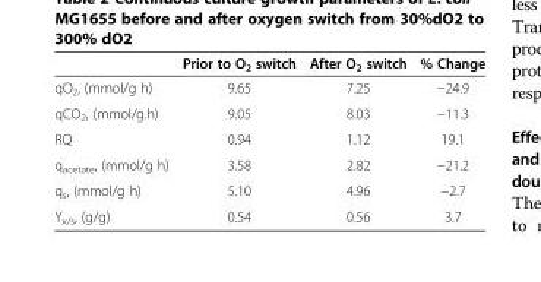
<table><thead><tr><td></td><td>Prior to O<sub>2</sub> switch</td><td>After O<sub>2</sub> switch</td><td>% Change</td></tr></thead><tbody><tr><td>qO<sub>2</sub>, (mmol/g h)</td><td>9.65</td><td>7.25</td><td>−24.9</td></tr><tr><td>qCO<sub>2</sub>, (mmol/g.h)</td><td>9.05</td><td>8.03</td><td>−11.3</td></tr><tr><td>RQ</td><td>0.94</td><td>1.12</td><td>19.1</td></tr><tr><td>q<sub>acetate</sub>, (mmol/g h)</td><td>3.58</td><td>2.82</td><td>−21.2</td></tr><tr><td>q<sub>s</sub>, (mmol/g h)</td><td>5.10</td><td>4.96</td><td>−2.7</td></tr><tr><td>Y<sub>x/s</sub>, (g/g)</td><td>0.54</td><td>0.56</td><td>3.7</td></tr></tbody></table>